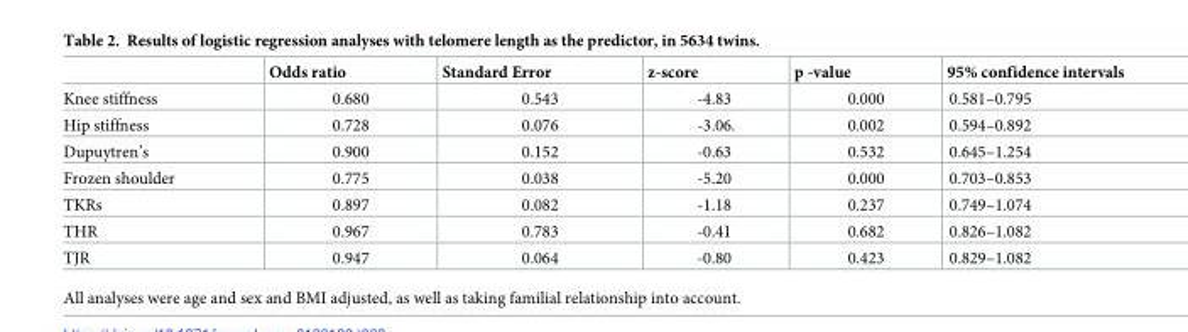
<table><thead><tr><td></td><td>Odds ratio</td><td>Standard Error</td><td>z-score</td><td>p -value</td><td>95% confidence intervals</td></tr></thead><tbody><tr><td>Knee stiffness</td><td>0.680</td><td>0.543</td><td>-4.83</td><td>0.000</td><td>0.581–0.795</td></tr><tr><td>Hip stiffness</td><td>0.728</td><td>0.076</td><td>-3.06.</td><td>0.002</td><td>0.594–0.892</td></tr><tr><td>Dupuytren’s</td><td>0.900</td><td>0.152</td><td>-0.63</td><td>0.532</td><td>0.645–1.254</td></tr><tr><td>Frozen shoulder</td><td>0.775</td><td>0.038</td><td>-5.20</td><td>0.000</td><td>0.703–0.853</td></tr><tr><td>TKRs</td><td>0.897</td><td>0.082</td><td>-1.18</td><td>0.237</td><td>0.749–1.074</td></tr><tr><td>THR</td><td>0.967</td><td>0.783</td><td>-0.41</td><td>0.682</td><td>0.826–1.082</td></tr><tr><td>TJR</td><td>0.947</td><td>0.064</td><td>-0.80</td><td>0.423</td><td>0.829–1.082</td></tr></tbody></table>